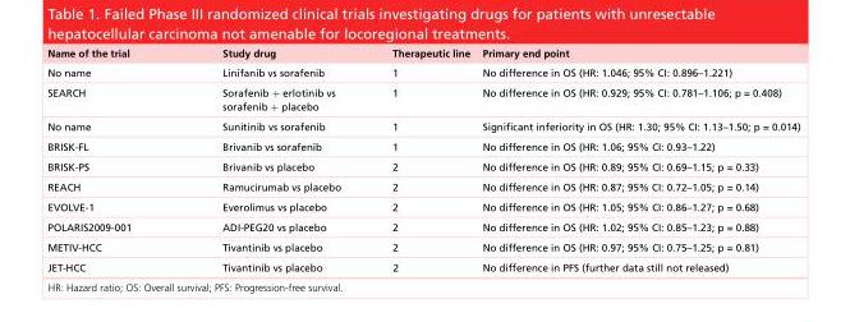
<table><thead><tr><td>Name of the trial</td><td>Study drug</td><td>Therapeutic line</td><td>Primary end point</td></tr></thead><tbody><tr><td>No name</td><td>Linifanib vs sorafenib</td><td>1</td><td>No difference in OS (HR: 1.046; 95% CI: 0.896–1.221)</td></tr><tr><td>SEARCH</td><td>Sorafenib + erlotinib vs sorafenib + placebo</td><td>1</td><td>No difference in OS (HR: 0.929; 95% CI: 0.781–1.106; p = 0.408)</td></tr><tr><td>No name</td><td>Sunitinib vs sorafenib</td><td>1</td><td>Significant inferiority in OS (HR: 1.30; 95% CI: 1.13–1.50; p = 0.014)</td></tr><tr><td>BRISK-FL</td><td>Brivanib vs sorafenib</td><td>1</td><td>No difference in OS (HR: 1.06; 95% CI: 0.93–1.22)</td></tr><tr><td>BRISK-PS</td><td>Brivanib vs placebo</td><td>2</td><td>No difference in OS (HR: 0.89; 95% CI: 0.69–1.15; p = 0.33)</td></tr><tr><td>REACH</td><td>Ramucirumab vs placebo</td><td>2</td><td>No difference in OS (HR: 0.87; 95% CI: 0.72–1.05; p = 0.14)</td></tr><tr><td>EVOLVE-1</td><td>Everolimus vs placebo</td><td>2</td><td>No difference in OS (HR: 1.05; 95% CI: 0.86–1.27; p = 0.68)</td></tr><tr><td>POLARIS2009-001</td><td>ADI-PEG20 vs placebo</td><td>2</td><td>No difference in OS (HR: 1.02; 95% CI: 0.85–1.23; p = 0.88)</td></tr><tr><td>METIV-HCC</td><td>Tivantinib vs placebo</td><td>2</td><td>No difference in OS (HR: 0.97; 95% CI: 0.75–1.25; p = 0.81)</td></tr><tr><td>JET-HCC</td><td>Tivantinib vs placebo</td><td>2</td><td>No difference in PFS (further data still not released)</td></tr></tbody></table>